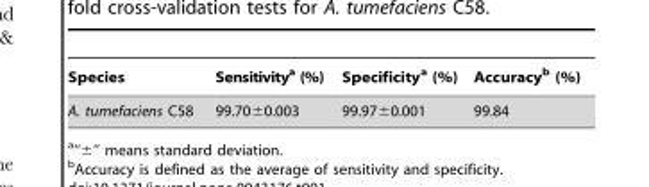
<table><thead><tr><td>Species</td><td>Sensitivity<sup>a</sup> (%)</td><td>Specificity<sup>a</sup> (%)</td><td>Accuracy<sup>b</sup> (%)</td></tr></thead><tbody><tr><td>A. tumefaciens C58</td><td>99.70±0.003</td><td>99.97±0.001</td><td>99.84</td></tr></tbody></table>